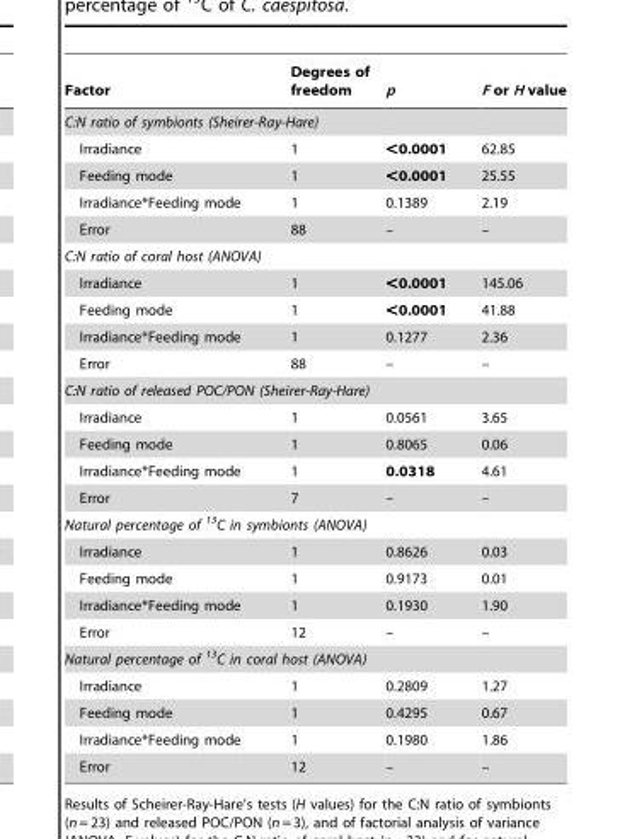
<table><thead><tr><td>Factor</td><td>Degrees of freedom</td><td>p</td><td>F or H value</td></tr></thead><tbody><tr><td colspan="4">C:N ratio of symbionts (Sheirer-Ray-Hare)</td></tr><tr><td>Irradiance</td><td>1</td><td>&lt;0.0001</td><td>62.85</td></tr><tr><td>Feeding mode</td><td>1</td><td>&lt;0.0001</td><td>25.55</td></tr><tr><td>Irradiance*Feeding mode</td><td>1</td><td>0.1389</td><td>2.19</td></tr><tr><td>Error</td><td>88</td><td>–</td><td>–</td></tr><tr><td colspan="4">C:N ratio of coral host (ANOVA)</td></tr><tr><td>Irradiance</td><td>1</td><td>&lt;0.0001</td><td>145.06</td></tr><tr><td>Feeding mode</td><td>1</td><td>&lt;0.0001</td><td>41.88</td></tr><tr><td>Irradiance*Feeding mode</td><td>1</td><td>0.1277</td><td>2.36</td></tr><tr><td>Error</td><td>88</td><td>–</td><td>–</td></tr><tr><td colspan="4">C:N ratio of released POC/PON (Sheirer-Ray-Hare)</td></tr><tr><td>Irradiance</td><td>1</td><td>0.0561</td><td>3.65</td></tr><tr><td>Feeding mode</td><td>1</td><td>0.8065</td><td>0.06</td></tr><tr><td>Irradiance*Feeding mode</td><td>1</td><td>0.0318</td><td>4.61</td></tr><tr><td>Error</td><td>7</td><td>–</td><td>–</td></tr><tr><td colspan="4">Natural percentage of <sup>13</sup>C in symbionts (ANOVA)</td></tr><tr><td>Irradiance</td><td>1</td><td>0.8626</td><td>0.03</td></tr><tr><td>Feeding mode</td><td>1</td><td>0.9173</td><td>0.01</td></tr><tr><td>Irradiance*Feeding mode</td><td>1</td><td>0.1930</td><td>1.90</td></tr><tr><td>Error</td><td>12</td><td>–</td><td>–</td></tr><tr><td colspan="4">Natural percentage of <sup>13</sup>C in coral host (ANOVA)</td></tr><tr><td>Irradiance</td><td>1</td><td>0.2809</td><td>1.27</td></tr><tr><td>Feeding mode</td><td>1</td><td>0.4295</td><td>0.67</td></tr><tr><td>Irradiance*Feeding mode</td><td>1</td><td>0.1980</td><td>1.86</td></tr><tr><td>Error</td><td>12</td><td>–</td><td>–</td></tr></tbody></table>